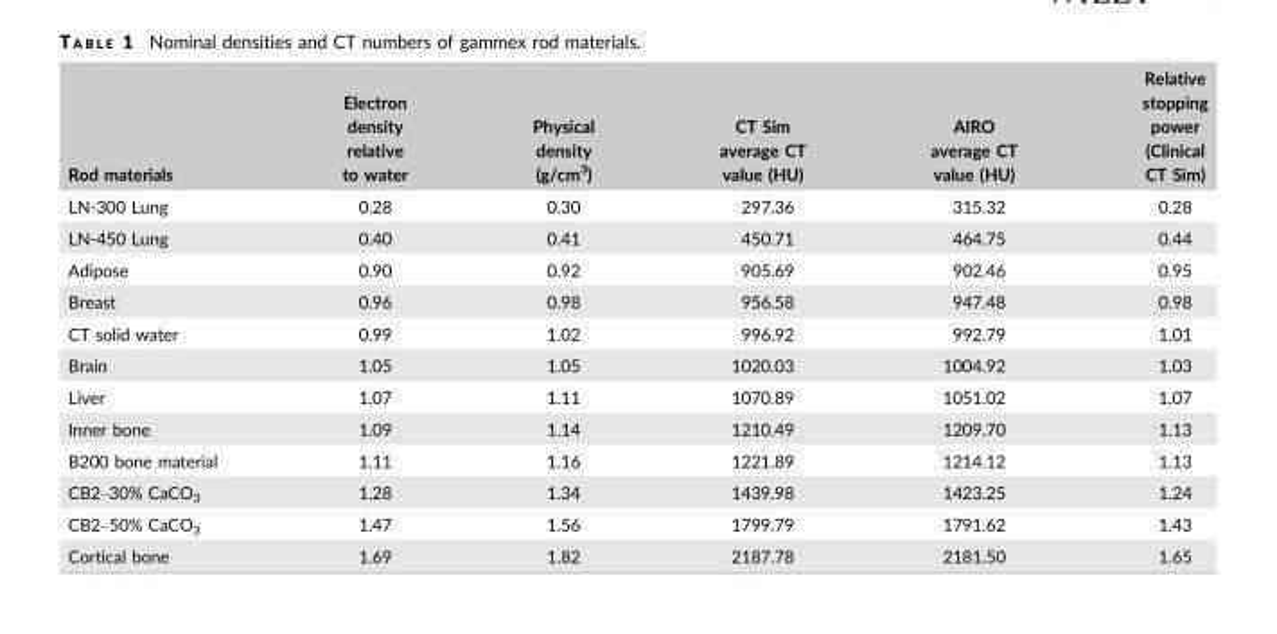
<table><thead><tr><td>Rod materials</td><td>Electron density relative to water</td><td>Physical density (g/cm<sup>3</sup>)</td><td>CT Sim average CT value (HU)</td><td>AIRO average CT value (HU)</td><td>Relative stopping power (Clinical CT Sim)</td></tr></thead><tbody><tr><td>LN-300 Lung</td><td>0.28</td><td>0.30</td><td>297.36</td><td>315.32</td><td>0.28</td></tr><tr><td>LN-450 Lung</td><td>0.40</td><td>0.41</td><td>450.71</td><td>464.75</td><td>0.44</td></tr><tr><td>Adipose</td><td>0.90</td><td>0.92</td><td>905.69</td><td>902.46</td><td>0.95</td></tr><tr><td>Breast</td><td>0.96</td><td>0.98</td><td>956.58</td><td>947.48</td><td>0.98</td></tr><tr><td>CT solid water</td><td>0.99</td><td>1.02</td><td>996.92</td><td>992.79</td><td>1.01</td></tr><tr><td>Brain</td><td>1.05</td><td>1.05</td><td>1020.03</td><td>1004.92</td><td>1.03</td></tr><tr><td>Liver</td><td>1.07</td><td>1.11</td><td>1070.89</td><td>1051.02</td><td>1.07</td></tr><tr><td>Inner bone</td><td>1.09</td><td>1.14</td><td>1210.49</td><td>1209.70</td><td>1.13</td></tr><tr><td>B200 bone material</td><td>1.11</td><td>1.16</td><td>1221.89</td><td>1214.12</td><td>1.13</td></tr><tr><td>CB2–30% CaCO<sub>3</sub></td><td>1.28</td><td>1.34</td><td>1439.98</td><td>1423.25</td><td>1.24</td></tr><tr><td>CB2–50% CaCO<sub>3</sub></td><td>1.47</td><td>1.56</td><td>1799.79</td><td>1791.62</td><td>1.43</td></tr><tr><td>Cortical bone</td><td>1.69</td><td>1.82</td><td>2187.78</td><td>2181.50</td><td>1.65</td></tr></tbody></table>